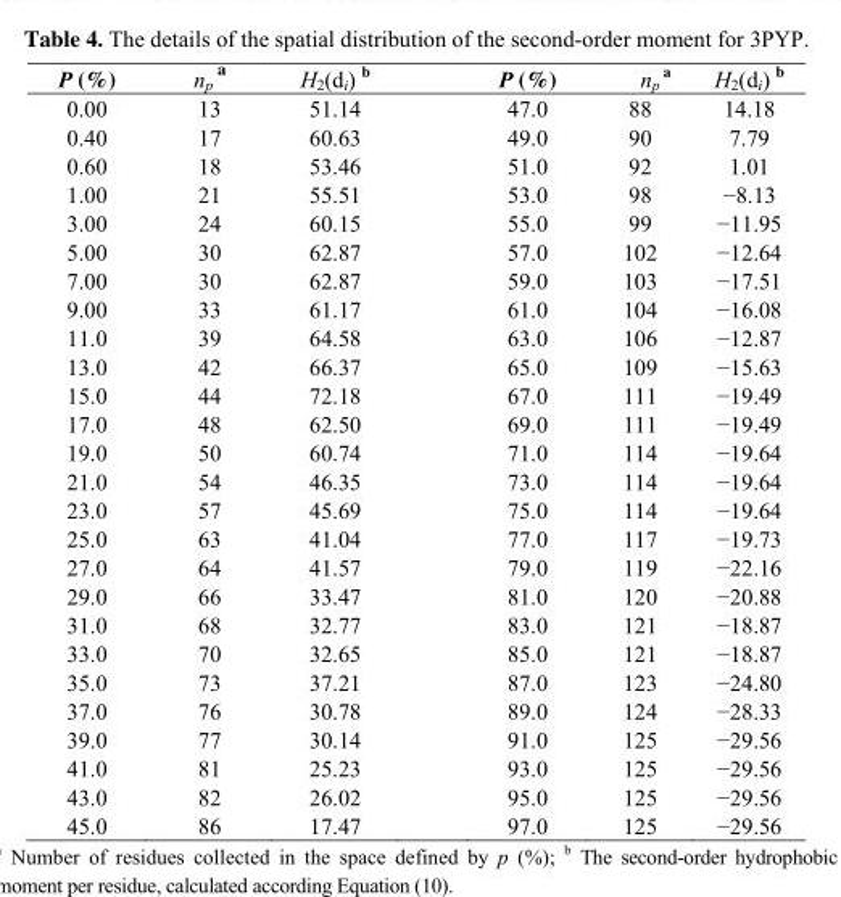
<table><thead><tr><td>P (%)</td><td>n<sub>p</sub> <sup>a</sup></td><td>H<sub>2</sub>(d<sub>i</sub>) b</td><td>P (%)</td><td>n<sub>p</sub> <sup>a</sup></td><td>H<sub>2</sub>(d<sub>i</sub>) b</td></tr></thead><tbody><tr><td>0.00</td><td>13</td><td>51.14</td><td>47.0</td><td>88</td><td>14.18</td></tr><tr><td>0.40</td><td>17</td><td>60.63</td><td>49.0</td><td>90</td><td>7.79</td></tr><tr><td>0.60</td><td>18</td><td>53.46</td><td>51.0</td><td>92</td><td>1.01</td></tr><tr><td>1.00</td><td>21</td><td>55.51</td><td>53.0</td><td>98</td><td>−8.13</td></tr><tr><td>3.00</td><td>24</td><td>60.15</td><td>55.0</td><td>99</td><td>−11.95</td></tr><tr><td>5.00</td><td>30</td><td>62.87</td><td>57.0</td><td>102</td><td>−12.64</td></tr><tr><td>7.00</td><td>30</td><td>62.87</td><td>59.0</td><td>103</td><td>−17.51</td></tr><tr><td>9.00</td><td>33</td><td>61.17</td><td>61.0</td><td>104</td><td>−16.08</td></tr><tr><td>11.0</td><td>39</td><td>64.58</td><td>63.0</td><td>106</td><td>−12.87</td></tr><tr><td>13.0</td><td>42</td><td>66.37</td><td>65.0</td><td>109</td><td>−15.63</td></tr><tr><td>15.0</td><td>44</td><td>72.18</td><td>67.0</td><td>111</td><td>−19.49</td></tr><tr><td>17.0</td><td>48</td><td>62.50</td><td>69.0</td><td>111</td><td>−19.49</td></tr><tr><td>19.0</td><td>50</td><td>60.74</td><td>71.0</td><td>114</td><td>−19.64</td></tr><tr><td>21.0</td><td>54</td><td>46.35</td><td>73.0</td><td>114</td><td>−19.64</td></tr><tr><td>23.0</td><td>57</td><td>45.69</td><td>75.0</td><td>114</td><td>−19.64</td></tr><tr><td>25.0</td><td>63</td><td>41.04</td><td>77.0</td><td>117</td><td>−19.73</td></tr><tr><td>27.0</td><td>64</td><td>41.57</td><td>79.0</td><td>119</td><td>−22.16</td></tr><tr><td>29.0</td><td>66</td><td>33.47</td><td>81.0</td><td>120</td><td>−20.88</td></tr><tr><td>31.0</td><td>68</td><td>32.77</td><td>83.0</td><td>121</td><td>−18.87</td></tr><tr><td>33.0</td><td>70</td><td>32.65</td><td>85.0</td><td>121</td><td>−18.87</td></tr><tr><td>35.0</td><td>73</td><td>37.21</td><td>87.0</td><td>123</td><td>−24.80</td></tr><tr><td>37.0</td><td>76</td><td>30.78</td><td>89.0</td><td>124</td><td>−28.33</td></tr><tr><td>39.0</td><td>77</td><td>30.14</td><td>91.0</td><td>125</td><td>−29.56</td></tr><tr><td>41.0</td><td>81</td><td>25.23</td><td>93.0</td><td>125</td><td>−29.56</td></tr><tr><td>43.0</td><td>82</td><td>26.02</td><td>95.0</td><td>125</td><td>−29.56</td></tr><tr><td>45.0</td><td>86</td><td>17.47</td><td>97.0</td><td>125</td><td>−29.56</td></tr></tbody></table>